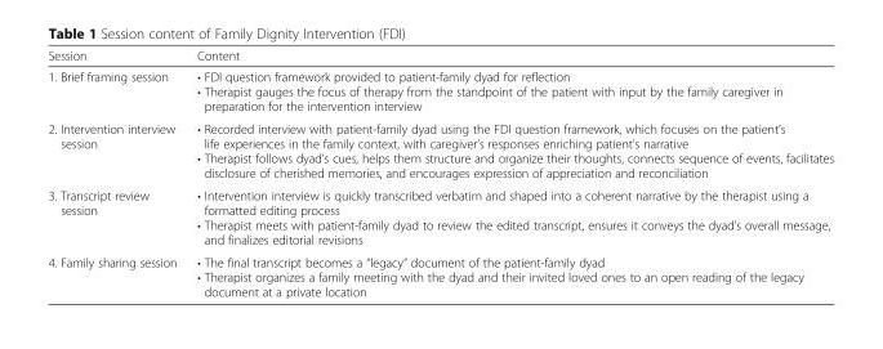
<table><thead><tr><td>Session</td><td>Content</td></tr></thead><tbody><tr><td>1. Brief framing session</td><td>• FDI question framework provided to patient-family dyad for reflection • Therapist gauges the focus of therapy from the standpoint of the patient with input by the family caregiver in preparation for the intervention interview</td></tr><tr><td>2. Intervention interview session</td><td>• Recorded interview with patient-family dyad using the FDI question framework, which focuses on the patient’s life experiences in the family context, with caregiver’s responses enriching patient’s narrative • Therapist follows dyad’s cues, helps them structure and organize their thoughts, connects sequence of events, facilitates disclosure of cherished memories, and encourages expression of appreciation and reconciliation</td></tr><tr><td>3. Transcript review session</td><td>• Intervention interview is quickly transcribed verbatim and shaped into a coherent narrative by the therapist using a formatted editing process • Therapist meets with patient-family dyad to review the edited transcript, ensures it conveys the dyad’s overall message, and finalizes editorial revisions</td></tr><tr><td>4. Family sharing session</td><td>• The final transcript becomes a “legacy” document of the patient-family dyad • Therapist organizes a family meeting with the dyad and their invited loved ones to an open reading of the legacy document at a private location</td></tr></tbody></table>